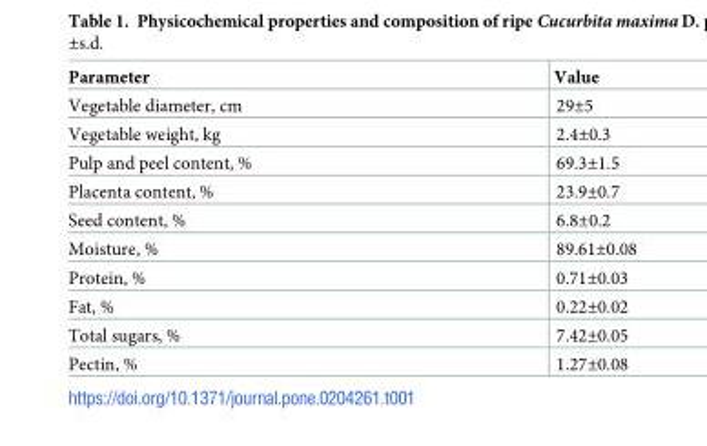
<table><thead><tr><td>Parameter</td><td>Value</td></tr></thead><tbody><tr><td>Vegetable diameter, cm</td><td>29±5</td></tr><tr><td>Vegetable weight, kg</td><td>2.4±0.3</td></tr><tr><td>Pulp and peel content, %</td><td>69.3±1.5</td></tr><tr><td>Placenta content, %</td><td>23.9±0.7</td></tr><tr><td>Seed content, %</td><td>6.8±0.2</td></tr><tr><td>Moisture, %</td><td>89.61±0.08</td></tr><tr><td>Protein, %</td><td>0.71±0.03</td></tr><tr><td>Fat, %</td><td>0.22±0.02</td></tr><tr><td>Total sugars, %</td><td>7.42±0.05</td></tr><tr><td>Pectin, %</td><td>1.27±0.08</td></tr></tbody></table>